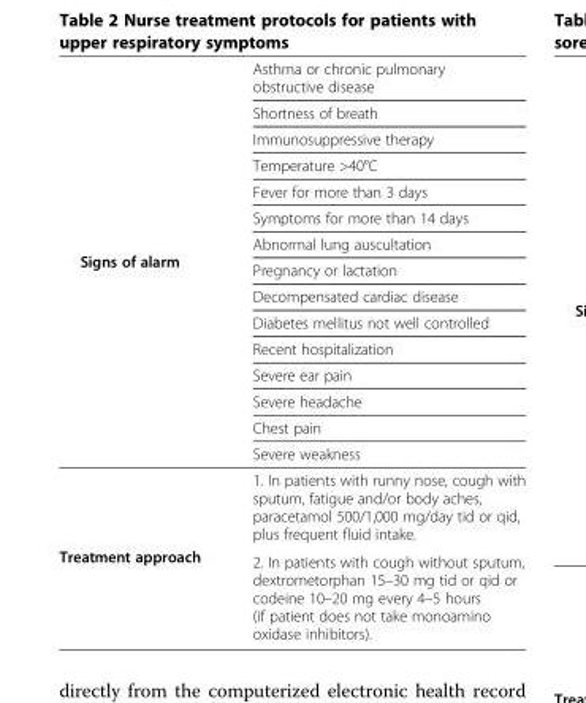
<table><tbody><tr><td rowspan="15">Signs of alarm</td><td>Asthma or chronic pulmonary obstructive disease</td></tr><tr><td>Shortness of breath</td></tr><tr><td>Immunosuppressive therapy</td></tr><tr><td>Temperature &gt;40°C</td></tr><tr><td>Fever for more than 3 days</td></tr><tr><td>Symptoms for more than 14 days</td></tr><tr><td>Abnormal lung auscultation</td></tr><tr><td>Pregnancy or lactation</td></tr><tr><td>Decompensated cardiac disease</td></tr><tr><td>Diabetes mellitus not well controlled</td></tr><tr><td>Recent hospitalization</td></tr><tr><td>Severe ear pain</td></tr><tr><td>Severe headache</td></tr><tr><td>Chest pain</td></tr><tr><td>Severe weakness</td></tr><tr><td rowspan="2">Treatment approach</td><td>1. In patients with runny nose, cough with sputum, fatigue and/or body aches, paracetamol 500/1,000 mg/day tid or qid, plus frequent fluid intake.</td></tr><tr><td>2. In patients with cough without sputum, dextrometorphan 15–30 mg tid or qid or codeine 10–20 mg every 4–5 hours (if patient does not take monoamino oxidase inhibitors).</td></tr></tbody></table>